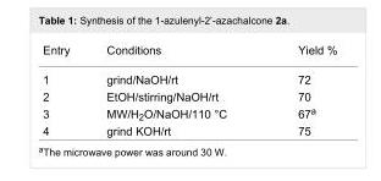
<table><tbody><tr><td>Entry</td><td>Conditions</td><td>Yield %</td></tr><tr><td>1</td><td>grind/NaOH/rt</td><td>72</td></tr><tr><td>2</td><td>EtOH/stirring/NaOH/rt</td><td>70</td></tr><tr><td>3</td><td>MW/H<sub>2</sub>O/NaOH/110 °C</td><td>67<sup>a</sup></td></tr><tr><td>4</td><td>grind KOH/rt</td><td>75</td></tr></tbody></table>